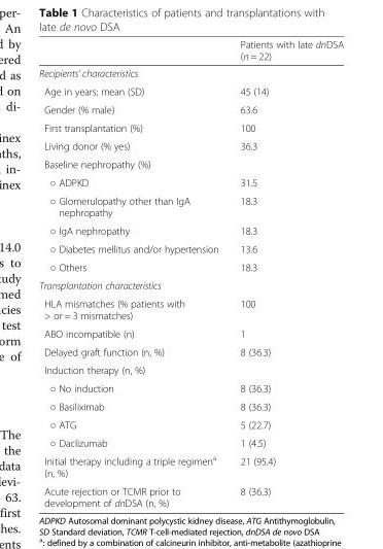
<table><thead><tr><td></td><td>Patients with late dnDSA (n = 22)</td></tr></thead><tbody><tr><td colspan="2">Recipients’ characteristics</td></tr><tr><td>Age in years; mean (SD)</td><td>45 (14)</td></tr><tr><td>Gender (% male)</td><td>63.6</td></tr><tr><td>First transplantation (%)</td><td>100</td></tr><tr><td>Living donor (% yes)</td><td>36.3</td></tr><tr><td colspan="2">Baseline nephropathy (%)</td></tr><tr><td>○ ADPKD</td><td>31.5</td></tr><tr><td>○ Glomerulopathy other than IgA nephropathy</td><td>18.3</td></tr><tr><td>○ IgA nephropathy</td><td>18.3</td></tr><tr><td>○ Diabetes mellitus and/or hypertension</td><td>13.6</td></tr><tr><td>○ Others</td><td>18.3</td></tr><tr><td colspan="2">Transplantation characteristics</td></tr><tr><td>HLA mismatches (% patients with &gt; or = 3 mismatches)</td><td>100</td></tr><tr><td>ABO incompatible (n)</td><td>1</td></tr><tr><td>Delayed graft function (n, %)</td><td>8 (36.3)</td></tr><tr><td colspan="2">Induction therapy (n, %)</td></tr><tr><td>○ No induction</td><td>8 (36.3)</td></tr><tr><td>○ Basiliximab</td><td>8 (36.3)</td></tr><tr><td>○ ATG</td><td>5 (22.7)</td></tr><tr><td>○ Daclizumab</td><td>1 (4.5)</td></tr><tr><td>Initial therapy including a triple regimen<sup>a</sup> (n, %)</td><td>21 (95.4)</td></tr><tr><td>Acute rejection or TCMR prior to development of dnDSA (n, %)</td><td>8 (36.3)</td></tr></tbody></table>